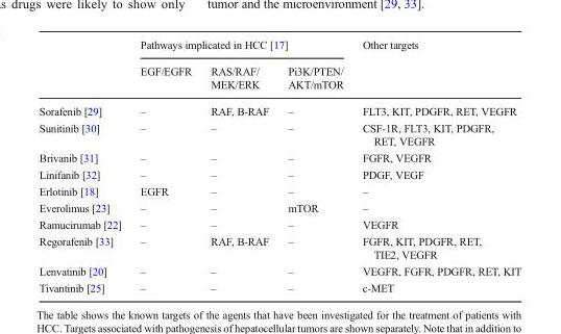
<table><thead><tr><td rowspan="2"></td><td colspan="3">Pathways implicated in HCC [17]</td><td rowspan="2">Other targets</td></tr><tr><td>EGF/EGFR</td><td>RAS/RAF/ MEK/ERK</td><td>Pi3K/PTEN/ AKT/mTOR</td></tr></thead><tbody><tr><td>Sorafenib [29]</td><td>–</td><td>RAF, B-RAF</td><td>–</td><td>FLT3, KIT, PDGFR, RET, VEGFR</td></tr><tr><td>Sunitinib [30]</td><td>–</td><td>–</td><td>–</td><td>CSF-1R, FLT3, KIT, PDGFR, RET, VEGFR</td></tr><tr><td>Brivanib [31]</td><td>–</td><td>–</td><td>–</td><td>FGFR, VEGFR</td></tr><tr><td>Linifanib [32]</td><td>–</td><td>–</td><td>–</td><td>PDGF, VEGF</td></tr><tr><td>Erlotinib [18]</td><td>EGFR</td><td>–</td><td>–</td><td>–</td></tr><tr><td>Everolimus [23]</td><td>–</td><td>–</td><td>mTOR</td><td>–</td></tr><tr><td>Ramucirumab [22]</td><td>–</td><td>–</td><td>–</td><td>VEGFR</td></tr><tr><td>Regorafenib [33]</td><td>–</td><td>RAF, B-RAF</td><td>–</td><td>FGFR, KIT, PDGFR, RET, TIE2, VEGFR</td></tr><tr><td>Lenvatinib [20]</td><td>–</td><td>–</td><td>–</td><td>VEGFR, FGFR, PDGFR, RET, KIT</td></tr><tr><td>Tivantinib [25]</td><td>–</td><td>–</td><td>–</td><td>c-MET</td></tr></tbody></table>